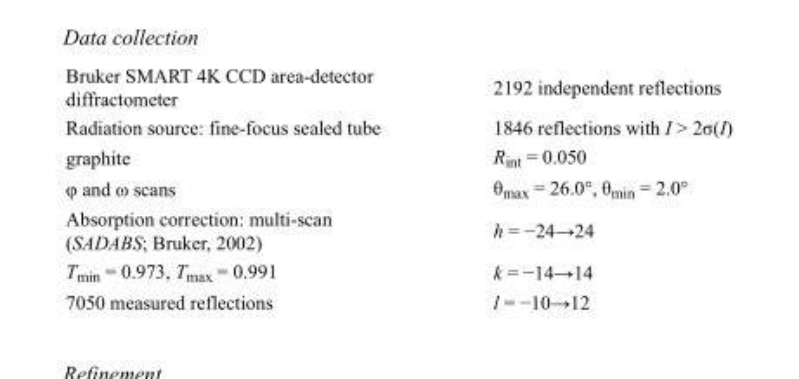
<table><tbody><tr><td>Bruker SMART 4K CCD area-detector diffractometer</td><td>2192 independent reflections</td></tr><tr><td>Radiation source: fine-focus sealed tube</td><td>1846 reflections with I &gt; 2σ(I)</td></tr><tr><td>graphite</td><td>R<sub>int</sub> = 0.050</td></tr><tr><td>φ and ω scans</td><td>θ<sub>max</sub> = 26.0°, θ<sub>min</sub> = 2.0°</td></tr><tr><td>Absorption correction: multi-scan (SADABS; Bruker, 2002)</td><td>h = −24→24</td></tr><tr><td>T<sub>min</sub> = 0.973, T<sub>max</sub> = 0.991</td><td>k = −14→14</td></tr><tr><td>7050 measured reflections</td><td>l = −10→12</td></tr></tbody></table>